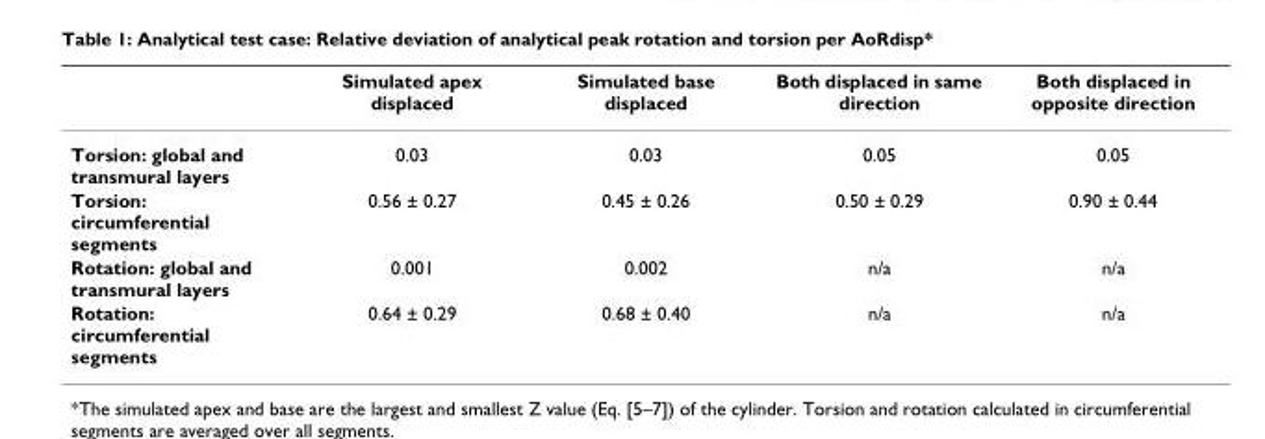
<table><thead><tr><td></td><td>Simulated apex displaced</td><td>Simulated base displaced</td><td>Both displaced in same direction</td><td>Both displaced in opposite direction</td></tr></thead><tbody><tr><td>Torsion: global and transmural layers</td><td>0.03</td><td>0.03</td><td>0.05</td><td>0.05</td></tr><tr><td>Torsion: circumferential segments</td><td>0.56 ± 0.27</td><td>0.45 ± 0.26</td><td>0.50 ± 0.29</td><td>0.90 ± 0.44</td></tr><tr><td>Rotation: global and transmural layers</td><td>0.001</td><td>0.002</td><td>n/a</td><td>n/a</td></tr><tr><td>Rotation: circumferential segments</td><td>0.64 ± 0.29</td><td>0.68 ± 0.40</td><td>n/a</td><td>n/a</td></tr></tbody></table>